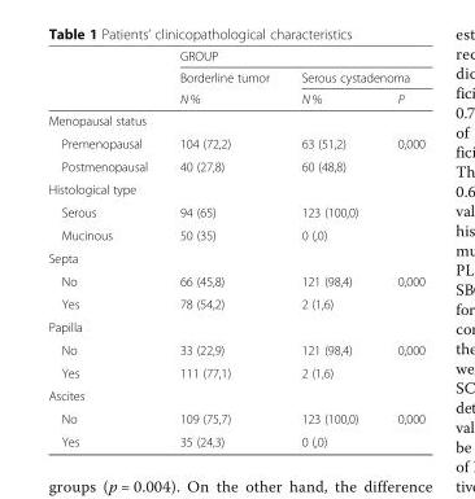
<table><thead><tr><td rowspan="3"></td><td colspan="3">GROUP</td></tr><tr><td rowspan="2">Borderline tumor N %</td><td colspan="2">Serous cystadenoma</td></tr><tr><td>N %</td><td>P</td></tr></thead><tbody><tr><td colspan="4">Menopausal status</td></tr><tr><td>Premenopausal</td><td>104 (72,2)</td><td>63 (51,2)</td><td>0,000</td></tr><tr><td>Postmenopausal</td><td>40 (27,8)</td><td>60 (48,8)</td><td></td></tr><tr><td colspan="4">Histological type</td></tr><tr><td>Serous</td><td>94 (65)</td><td>123 (100,0)</td><td></td></tr><tr><td>Mucinous</td><td>50 (35)</td><td>0 (,0)</td><td></td></tr><tr><td colspan="4">Septa</td></tr><tr><td>No</td><td>66 (45,8)</td><td>121 (98,4)</td><td>0,000</td></tr><tr><td>Yes</td><td>78 (54,2)</td><td>2 (1,6)</td><td></td></tr><tr><td colspan="4">Papilla</td></tr><tr><td>No</td><td>33 (22,9)</td><td>121 (98,4)</td><td>0,000</td></tr><tr><td>Yes</td><td>111 (77,1)</td><td>2 (1,6)</td><td></td></tr><tr><td colspan="4">Ascites</td></tr><tr><td>No</td><td>109 (75,7)</td><td>123 (100,0)</td><td>0,000</td></tr><tr><td>Yes</td><td>35 (24,3)</td><td>0 (,0)</td><td></td></tr></tbody></table>